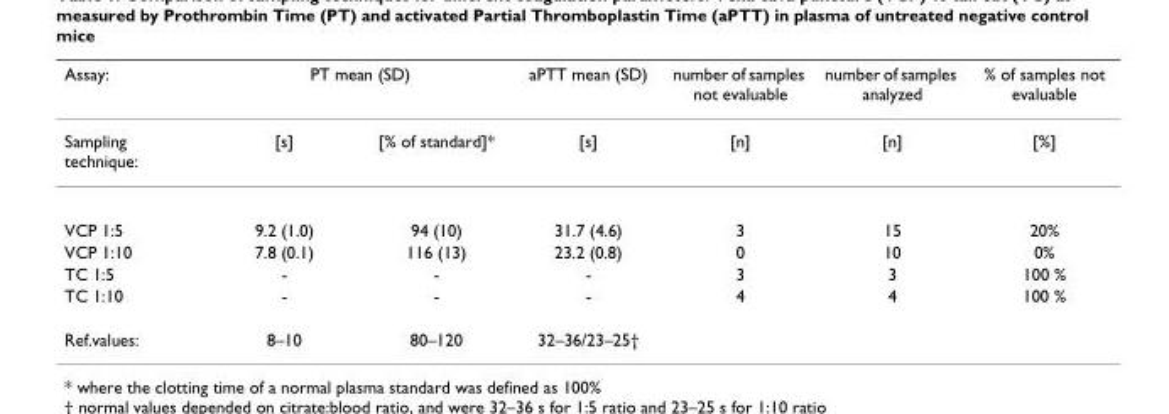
<table><thead><tr><td rowspan="2">Assay: Sampling technique:</td><td colspan="2">PT mean (SD)</td><td rowspan="2">aPTT mean (SD) [s]</td><td rowspan="2">number of samples not evaluable [n]</td><td rowspan="2">number of samples analyzed [n]</td><td rowspan="2">% of samples not evaluable [%]</td></tr><tr><td>[s]</td><td>[% of standard]*</td></tr></thead><tbody><tr><td>VCP 1:5</td><td>9.2 (1.0)</td><td>94 (10)</td><td>31.7 (4.6)</td><td>3</td><td>15</td><td>20%</td></tr><tr><td>VCP 1:10</td><td>7.8 (0.1)</td><td>116 (13)</td><td>23.2 (0.8)</td><td>0</td><td>10</td><td>0%</td></tr><tr><td>TC 1:5</td><td>-</td><td>-</td><td>-</td><td>3</td><td>3</td><td>100 %</td></tr><tr><td>TC 1:10</td><td>-</td><td>-</td><td>-</td><td>4</td><td>4</td><td>100 %</td></tr><tr><td>Ref.values:</td><td>8–10</td><td>80–120</td><td>32–36/23–25†</td><td></td><td></td><td></td></tr></tbody></table>